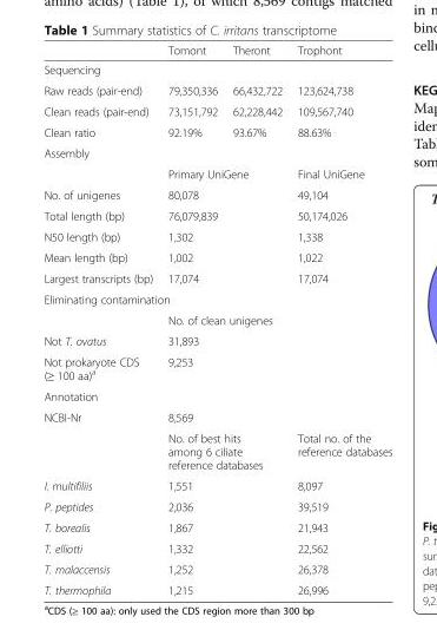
<table><thead><tr><td></td><td>Tomont</td><td>Theront</td><td>Trophont</td></tr></thead><tbody><tr><td colspan="4">Sequencing</td></tr><tr><td>Raw reads (pair-end)</td><td>79,350,336</td><td>66,432,722</td><td>123,624,738</td></tr><tr><td>Clean reads (pair-end)</td><td>73,151,792</td><td>62,228,442</td><td>109,567,740</td></tr><tr><td>Clean ratio</td><td>92.19%</td><td>93.67%</td><td>88.63%</td></tr><tr><td colspan="4">Assembly</td></tr><tr><td></td><td colspan="2">Primary UniGene</td><td>Final UniGene</td></tr><tr><td>No. of unigenes</td><td colspan="2">80,078</td><td>49,104</td></tr><tr><td>Total length (bp)</td><td colspan="2">76,079,839</td><td>50,174,026</td></tr><tr><td>N50 length (bp)</td><td colspan="2">1,302</td><td>1,338</td></tr><tr><td>Mean length (bp)</td><td colspan="2">1,002</td><td>1,022</td></tr><tr><td>Largest transcripts (bp)</td><td colspan="2">17,074</td><td>17,074</td></tr><tr><td colspan="4">Eliminating contamination</td></tr><tr><td></td><td colspan="3">No. of clean unigenes</td></tr><tr><td>Not T. ovatus</td><td colspan="3">31,893</td></tr><tr><td>Not prokaryote CDS (≥ 100 aa)<sup>a</sup></td><td colspan="3">9,253</td></tr><tr><td colspan="4">Annotation</td></tr><tr><td rowspan="2">NCBI-Nr</td><td colspan="3">8,569</td></tr><tr><td colspan="2">No. of best hits among 6 ciliate reference databases</td><td>Total no. of the reference databases</td></tr><tr><td>I. multifiliis</td><td colspan="2">1,551</td><td>8,097</td></tr><tr><td>P. peptides</td><td colspan="2">2,036</td><td>39,519</td></tr><tr><td>T. borealis</td><td colspan="2">1,867</td><td>21,943</td></tr><tr><td>T. elliotti</td><td colspan="2">1,332</td><td>22,562</td></tr><tr><td>T. malaccensis</td><td colspan="2">1,252</td><td>26,378</td></tr><tr><td>T. thermophila</td><td colspan="2">1,215</td><td>26,996</td></tr></tbody></table>